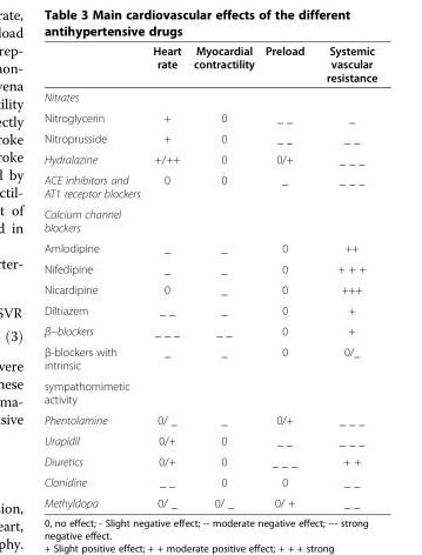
<table><thead><tr><td></td><td>Heart rate</td><td>Myocardial contractility</td><td>Preload</td><td>Systemic vascular resistance</td></tr></thead><tbody><tr><td colspan="5">Nitrates</td></tr><tr><td>Nitroglycerin</td><td>+</td><td>0</td><td>_ _</td><td>_</td></tr><tr><td>Nitroprusside</td><td>+</td><td>0</td><td>_ _</td><td>_ _</td></tr><tr><td>Hydralazine</td><td>+/++</td><td>0</td><td>0/+</td><td>_ _ _</td></tr><tr><td>ACE inhibitors and AT1 receptor blockers</td><td>0</td><td>0</td><td>_</td><td>_ _ _</td></tr><tr><td colspan="5">Calcium channel blockers</td></tr><tr><td>Amlodipine</td><td>_</td><td>_</td><td>0</td><td>++</td></tr><tr><td>Nifedipine</td><td>_</td><td>_</td><td>0</td><td>+ + +</td></tr><tr><td>Nicardipine</td><td>0</td><td>_</td><td>0</td><td>+++</td></tr><tr><td>Diltiazem</td><td>_ _</td><td>_</td><td>0</td><td>+</td></tr><tr><td>β−blockers</td><td>_ _ _</td><td>_ _</td><td>0</td><td>+</td></tr><tr><td>β-blockers with intrinsic</td><td>_</td><td>_</td><td>0</td><td>0/_</td></tr><tr><td colspan="5">sympathomimetic activity</td></tr><tr><td>Phentolamine</td><td>0/ _</td><td>_</td><td>0/+</td><td>_ _ _</td></tr><tr><td>Urapidil</td><td>0/+</td><td>0</td><td>_ _</td><td>_ _ _</td></tr><tr><td>Diuretics</td><td>0/+</td><td>0</td><td>_ _ _</td><td>+ +</td></tr><tr><td>Clonidine</td><td>_ _</td><td>0</td><td>0</td><td>_ _</td></tr><tr><td>Methyldopa</td><td>0/ _</td><td>0/ _</td><td>0/ +</td><td>_ _</td></tr></tbody></table>